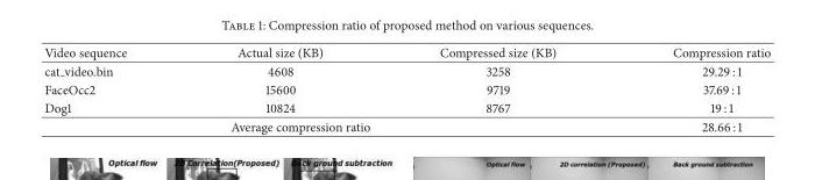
<table><thead><tr><td>Video sequence</td><td>Actual size (KB)</td><td>Compressed size (KB)</td><td>Compression ratio</td></tr></thead><tbody><tr><td>cat video.bin</td><td>4608</td><td>3258</td><td>29.29 : 1</td></tr><tr><td>FaceOcc2</td><td>15600</td><td>9719</td><td>37.69 : 1</td></tr><tr><td>Dog1</td><td>10824</td><td>8767</td><td>19 : 1</td></tr><tr><td colspan="3">Average compression ratio</td><td>28.66 : 1</td></tr></tbody></table>